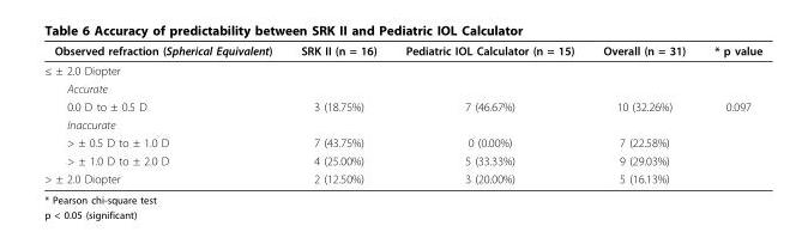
<table><thead><tr><td>Observed refraction (Spherical Equivalent)</td><td>SRK II (n = 16)</td><td>Pediatric IOL Calculator (n = 15)</td><td>Overall (n = 31)</td><td>* p value</td></tr></thead><tbody><tr><td colspan="5">≤ ± 2.0 Diopter</td></tr><tr><td colspan="5">Accurate</td></tr><tr><td>0.0 D to ± 0.5 D</td><td>3 (18.75%)</td><td>7 (46.67%)</td><td>10 (32.26%)</td><td>0.097</td></tr><tr><td colspan="5">Inaccurate</td></tr><tr><td>&gt; ± 0.5 D to ± 1.0 D</td><td>7 (43.75%)</td><td>0 (0.00%)</td><td>7 (22.58%)</td><td></td></tr><tr><td>&gt; ± 1.0 D to ± 2.0 D</td><td>4 (25.00%)</td><td>5 (33.33%)</td><td>9 (29.03%)</td><td></td></tr><tr><td>&gt; ± 2.0 Diopter</td><td>2 (12.50%)</td><td>3 (20.00%)</td><td>5 (16.13%)</td><td></td></tr></tbody></table>